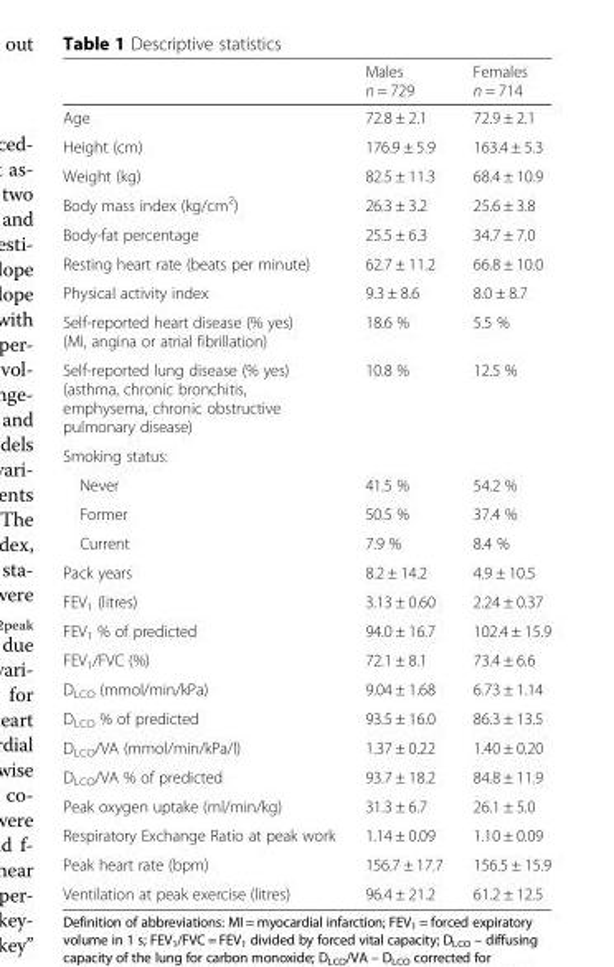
<table><thead><tr><td></td><td>Males n = 729</td><td>Females n = 714</td></tr></thead><tbody><tr><td>Age</td><td>72.8 ± 2.1</td><td>72.9 ± 2.1</td></tr><tr><td>Height (cm)</td><td>176.9 ± 5.9</td><td>163.4 ± 5.3</td></tr><tr><td>Weight (kg)</td><td>82.5 ± 11.3</td><td>68.4 ± 10.9</td></tr><tr><td>Body mass index (kg/cm<sup>2</sup>)</td><td>26.3 ± 3.2</td><td>25.6 ± 3.8</td></tr><tr><td>Body-fat percentage</td><td>25.5 ± 6.3</td><td>34.7 ± 7.0</td></tr><tr><td>Resting heart rate (beats per minute)</td><td>62.7 ± 11.2</td><td>66.8 ± 10.0</td></tr><tr><td>Physical activity index</td><td>9.3 ± 8.6</td><td>8.0 ± 8.7</td></tr><tr><td>Self-reported heart disease (% yes) (MI, angina or atrial fibrillation)</td><td>18.6 %</td><td>5.5 %</td></tr><tr><td>Self-reported lung disease (% yes) (asthma, chronic bronchitis, emphysema, chronic obstructive pulmonary disease)</td><td>10.8 %</td><td>12.5 %</td></tr><tr><td colspan="3">Smoking status:</td></tr><tr><td>Never</td><td>41.5 %</td><td>54.2 %</td></tr><tr><td>Former</td><td>50.5 %</td><td>37.4 %</td></tr><tr><td>Current</td><td>7.9 %</td><td>8.4 %</td></tr><tr><td>Pack years</td><td>8.2 ± 14.2</td><td>4.9 ± 10.5</td></tr><tr><td>FEV<sub>1</sub> (litres)</td><td>3.13 ± 0.60</td><td>2.24 ± 0.37</td></tr><tr><td>FEV<sub>1</sub> % of predicted</td><td>94.0 ± 16.7</td><td>102.4 ± 15.9</td></tr><tr><td>FEV<sub>1</sub>/FVC (%)</td><td>72.1 ± 8.1</td><td>73.4 ± 6.6</td></tr><tr><td>D<sub>LCO</sub> (mmol/min/kPa)</td><td>9.04 ± 1.68</td><td>6.73 ± 1.14</td></tr><tr><td>D<sub>LCO</sub> % of predicted</td><td>93.5 ± 16.0</td><td>86.3 ± 13.5</td></tr><tr><td>D<sub>LCO</sub>/VA (mmol/min/kPa/l)</td><td>1.37 ± 0.22</td><td>1.40 ± 0.20</td></tr><tr><td>D<sub>LCO</sub>/VA % of predicted</td><td>93.7 ± 18.2</td><td>84.8 ± 11.9</td></tr><tr><td>Peak oxygen uptake (ml/min/kg)</td><td>31.3 ± 6.7</td><td>26.1 ± 5.0</td></tr><tr><td>Respiratory Exchange Ratio at peak work</td><td>1.14 ± 0.09</td><td>1.10 ± 0.09</td></tr><tr><td>Peak heart rate (bpm)</td><td>156.7 ± 17.7</td><td>156.5 ± 15.9</td></tr><tr><td>Ventilation at peak exercise (litres)</td><td>96.4 ± 21.2</td><td>61.2 ± 12.5</td></tr></tbody></table>